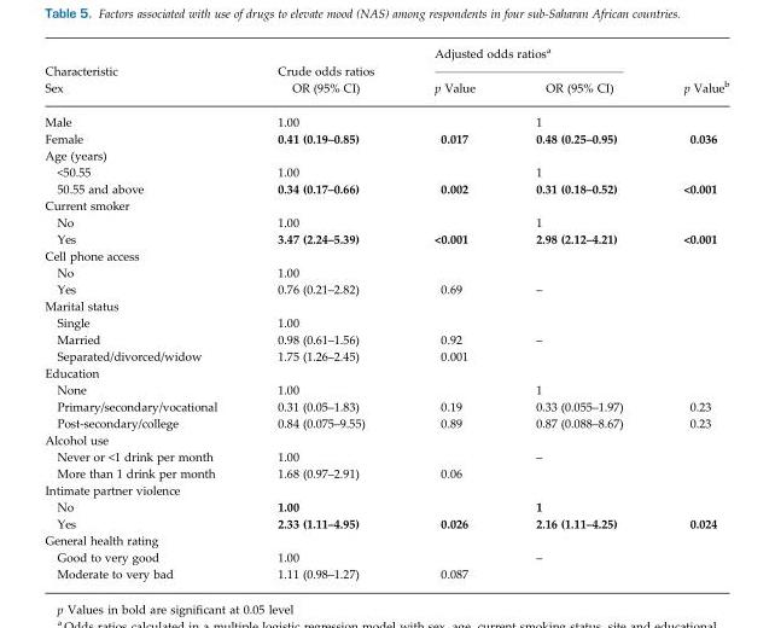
<table><thead><tr><td rowspan="2">Characteristic Sex</td><td rowspan="2">Crude odds ratios OR (95% CI)</td><td colspan="2">Adjusted odds ratios<sup>a</sup></td><td rowspan="2">p Value<sup>b</sup></td></tr><tr><td>p Value</td><td>OR (95% CI)</td></tr></thead><tbody><tr><td>Male</td><td>1.00</td><td></td><td>1</td><td></td></tr><tr><td>Female</td><td>0.41 (0.19–0.85)</td><td>0.017</td><td>0.48 (0.25–0.95)</td><td>0.036</td></tr><tr><td colspan="5">Age (years)</td></tr><tr><td>&lt;50.55</td><td>1.00</td><td></td><td>1</td><td></td></tr><tr><td>50.55 and above</td><td>0.34 (0.17–0.66)</td><td>0.002</td><td>0.31 (0.18–0.52)</td><td>&lt;0.001</td></tr><tr><td colspan="5">Current smoker</td></tr><tr><td>No</td><td>1.00</td><td></td><td>1</td><td></td></tr><tr><td>Yes</td><td>3.47 (2.24–5.39)</td><td>&lt;0.001</td><td>2.98 (2.12–4.21)</td><td>&lt;0.001</td></tr><tr><td colspan="5">Cell phone access</td></tr><tr><td>No</td><td>1.00</td><td></td><td></td><td></td></tr><tr><td>Yes</td><td>0.76 (0.21–2.82)</td><td>0.69</td><td>–</td><td></td></tr><tr><td colspan="5">Marital status</td></tr><tr><td>Single</td><td>1.00</td><td></td><td></td><td></td></tr><tr><td>Married</td><td>0.98 (0.61–1.56)</td><td>0.92</td><td>–</td><td></td></tr><tr><td>Separated/divorced/widow</td><td>1.75 (1.26–2.45)</td><td>0.001</td><td></td><td></td></tr><tr><td colspan="5">Education</td></tr><tr><td>None</td><td>1.00</td><td></td><td>1</td><td></td></tr><tr><td>Primary/secondary/vocational</td><td>0.31 (0.05–1.83)</td><td>0.19</td><td>0.33 (0.055–1.97)</td><td>0.23</td></tr><tr><td>Post-secondary/college</td><td>0.84 (0.075–9.55)</td><td>0.89</td><td>0.87 (0.088–8.67)</td><td>0.23</td></tr><tr><td colspan="5">Alcohol use</td></tr><tr><td>Never or &lt;1 drink per month</td><td>1.00</td><td></td><td>–</td><td></td></tr><tr><td>More than 1 drink per month</td><td>1.68 (0.97–2.91)</td><td>0.06</td><td></td><td></td></tr><tr><td colspan="5">Intimate partner violence</td></tr><tr><td>No</td><td>1.00</td><td></td><td>1</td><td></td></tr><tr><td>Yes</td><td>2.33 (1.11–4.95)</td><td>0.026</td><td>2.16 (1.11–4.25)</td><td>0.024</td></tr><tr><td colspan="5">General health rating</td></tr><tr><td>Good to very good</td><td>1.00</td><td></td><td>–</td><td></td></tr><tr><td>Moderate to very bad</td><td>1.11 (0.98–1.27)</td><td>0.087</td><td></td><td></td></tr></tbody></table>